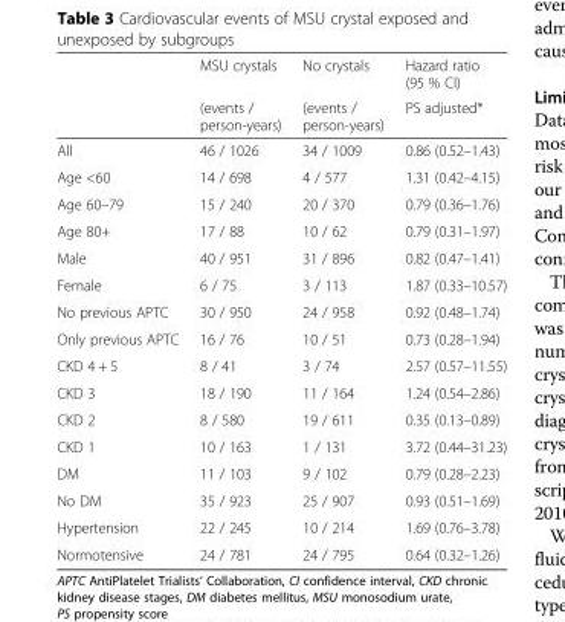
<table><thead><tr><td rowspan="2"></td><td rowspan="2">MSU crystals (events / person-years)</td><td rowspan="2">No crystals (events / person-years)</td><td rowspan="2">Hazard ratio (95 % CI) PS adjusted*</td></tr><tr></tr></thead><tbody><tr><td>All</td><td>46 / 1026</td><td>34 / 1009</td><td>0.86 (0.52–1.43)</td></tr><tr><td>Age &lt;60</td><td>14 / 698</td><td>4 / 577</td><td>1.31 (0.42–4.15)</td></tr><tr><td>Age 60–79</td><td>15 / 240</td><td>20 / 370</td><td>0.79 (0.36–1.76)</td></tr><tr><td>Age 80+</td><td>17 / 88</td><td>10 / 62</td><td>0.79 (0.31–1.97)</td></tr><tr><td>Male</td><td>40 / 951</td><td>31 / 896</td><td>0.82 (0.47–1.41)</td></tr><tr><td>Female</td><td>6 / 75</td><td>3 / 113</td><td>1.87 (0.33–10.57)</td></tr><tr><td>No previous APTC</td><td>30 / 950</td><td>24 / 958</td><td>0.92 (0.48–1.74)</td></tr><tr><td>Only previous APTC</td><td>16 / 76</td><td>10 / 51</td><td>0.73 (0.28–1.94)</td></tr><tr><td>CKD 4 + 5</td><td>8 / 41</td><td>3 / 74</td><td>2.57 (0.57–11.55)</td></tr><tr><td>CKD 3</td><td>18 / 190</td><td>11 / 164</td><td>1.24 (0.54–2.86)</td></tr><tr><td>CKD 2</td><td>8 / 580</td><td>19 / 611</td><td>0.35 (0.13–0.89)</td></tr><tr><td>CKD 1</td><td>10 / 163</td><td>1 / 131</td><td>3.72 (0.44–31.23)</td></tr><tr><td>DM</td><td>11 / 103</td><td>9 / 102</td><td>0.79 (0.28–2.23)</td></tr><tr><td>No DM</td><td>35 / 923</td><td>25 / 907</td><td>0.93 (0.51–1.69)</td></tr><tr><td>Hypertension</td><td>22 / 245</td><td>10 / 214</td><td>1.69 (0.76–3.78)</td></tr><tr><td>Normotensive</td><td>24 / 781</td><td>24 / 795</td><td>0.64 (0.32–1.26)</td></tr></tbody></table>